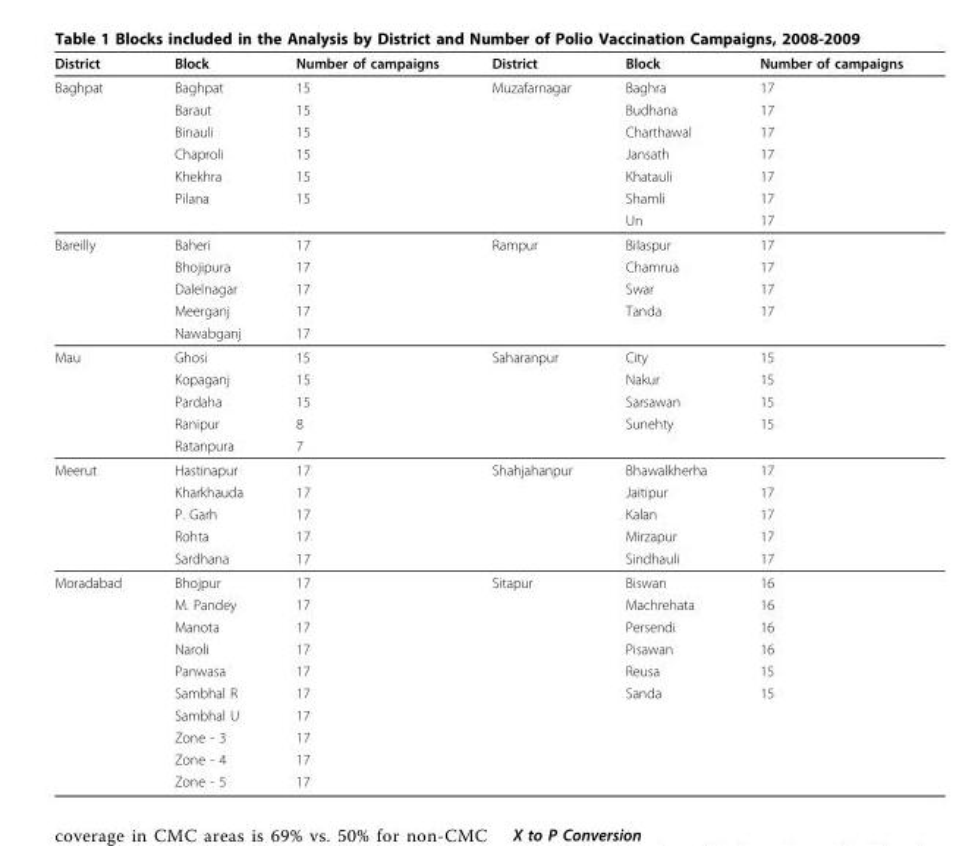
<table><tbody><tr><td>District</td><td>Block</td><td>Number of campaigns</td><td>District</td><td>Block</td><td>Number of campaigns</td></tr><tr><td rowspan="7">Baghpat</td><td>Baghpat</td><td>15</td><td>Muzafarnagar</td><td>Baghra</td><td>17</td></tr><tr><td>Baraut</td><td>15</td><td></td><td>Budhana</td><td>17</td></tr><tr><td>Binauli</td><td>15</td><td></td><td>Charthawal</td><td>17</td></tr><tr><td>Chaproli</td><td>15</td><td></td><td>Jansath</td><td>17</td></tr><tr><td>Khekhra</td><td>15</td><td></td><td>Khatauli</td><td>17</td></tr><tr><td>Pilana</td><td>15</td><td></td><td>Shamli</td><td>17</td></tr><tr><td></td><td></td><td></td><td>Un</td><td>17</td></tr><tr><td rowspan="5">Bareilly</td><td>Baheri</td><td>17</td><td>Rampur</td><td>Bilaspur</td><td>17</td></tr><tr><td>Bhojipura</td><td>17</td><td></td><td>Chamrua</td><td>17</td></tr><tr><td>Dalelnagar</td><td>17</td><td></td><td>Swar</td><td>17</td></tr><tr><td>Meerganj</td><td>17</td><td></td><td>Tanda</td><td>17</td></tr><tr><td>Nawabganj</td><td>17</td><td></td><td></td><td></td></tr><tr><td rowspan="5">Mau</td><td>Ghosi</td><td>15</td><td>Saharanpur</td><td>City</td><td>15</td></tr><tr><td>Kopaganj</td><td>15</td><td></td><td>Nakur</td><td>15</td></tr><tr><td>Pardaha</td><td>15</td><td></td><td>Sarsawan</td><td>15</td></tr><tr><td>Ranipur</td><td>8</td><td></td><td>Sunehty</td><td>15</td></tr><tr><td>Ratanpura</td><td>7</td><td></td><td></td><td></td></tr><tr><td rowspan="5">Meerut</td><td>Hastinapur</td><td>17</td><td>Shahjahanpur</td><td>Bhawalkherha</td><td>17</td></tr><tr><td>Kharkhauda</td><td>17</td><td></td><td>Jaitipur</td><td>17</td></tr><tr><td>P. Garh</td><td>17</td><td></td><td>Kalan</td><td>17</td></tr><tr><td>Rohta</td><td>17</td><td></td><td>Mirzapur</td><td>17</td></tr><tr><td>Sardhana</td><td>17</td><td></td><td>Sindhauli</td><td>17</td></tr><tr><td rowspan="10">Moradabad</td><td>Bhojpur</td><td>17</td><td>Sitapur</td><td>Biswan</td><td>16</td></tr><tr><td>M. Pandey</td><td>17</td><td></td><td>Machrehata</td><td>16</td></tr><tr><td>Manota</td><td>17</td><td></td><td>Persendi</td><td>16</td></tr><tr><td>Naroli</td><td>17</td><td></td><td>Pisawan</td><td>16</td></tr><tr><td>Panwasa</td><td>17</td><td></td><td>Reusa</td><td>15</td></tr><tr><td>Sambhal R</td><td>17</td><td></td><td>Sanda</td><td>15</td></tr><tr><td>Sambhal U</td><td>17</td><td></td><td></td><td></td></tr><tr><td>Zone - 3</td><td>17</td><td></td><td></td><td></td></tr><tr><td>Zone - 4</td><td>17</td><td></td><td></td><td></td></tr><tr><td>Zone - 5</td><td>17</td><td></td><td></td><td></td></tr></tbody></table>